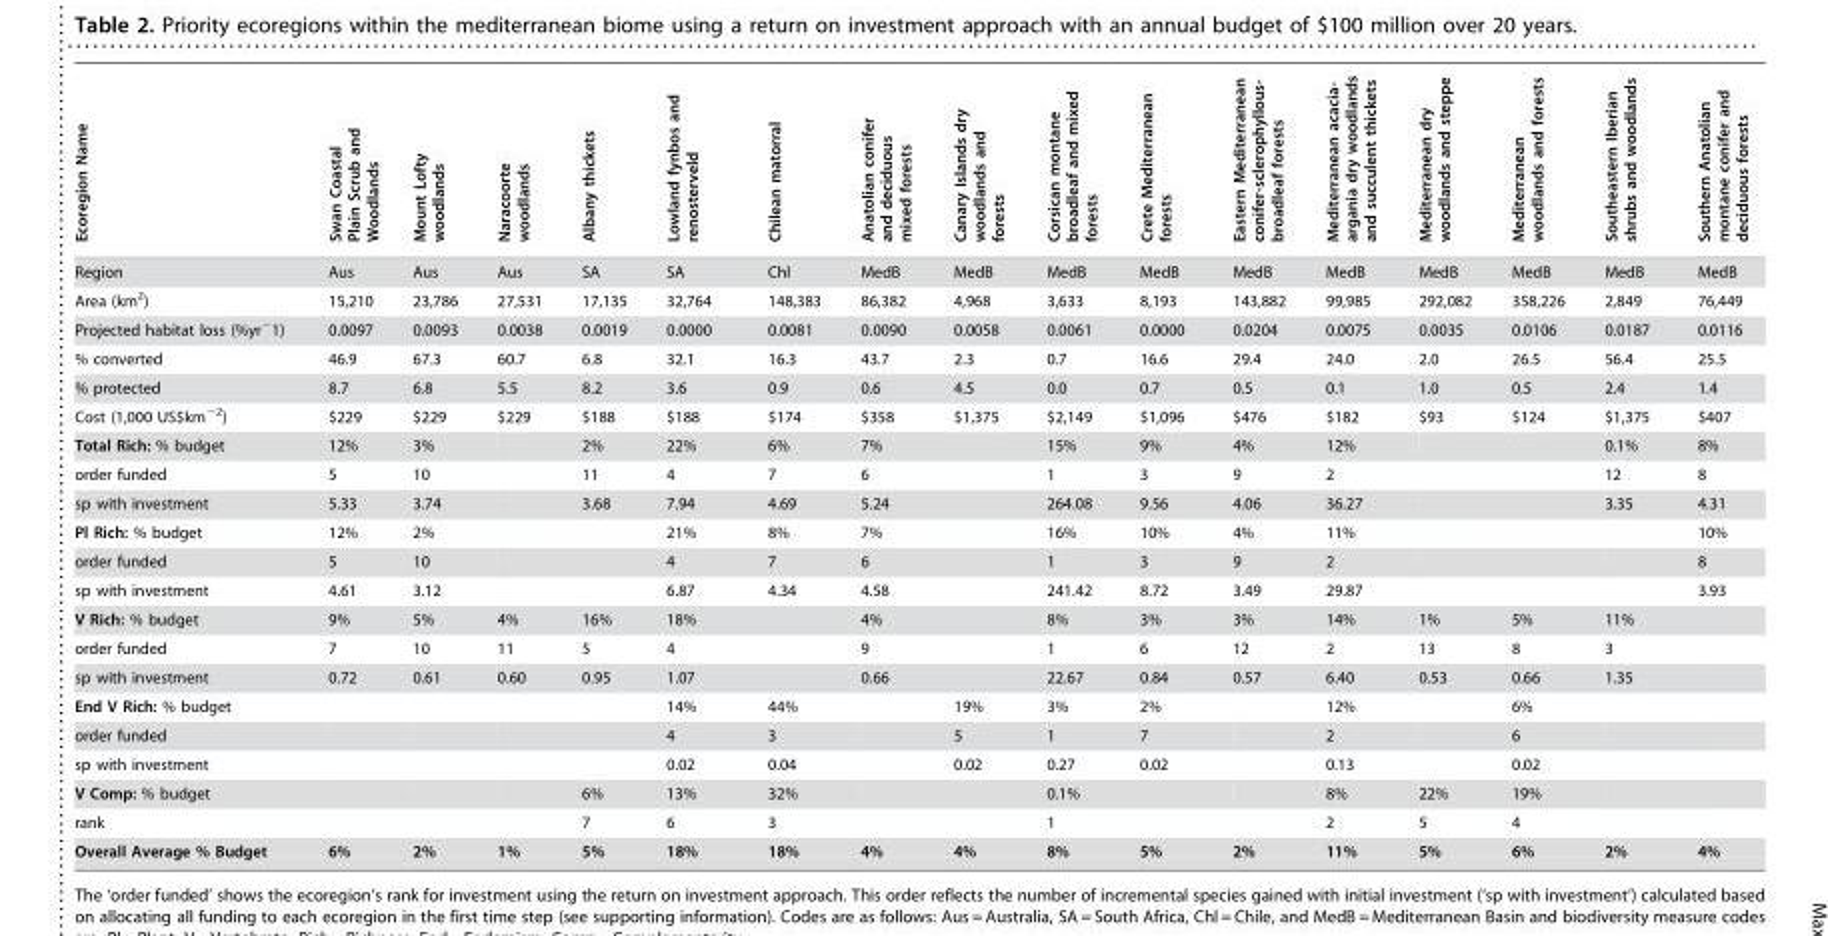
<table><thead><tr><td>Ecoregion Name</td><td>Swan Coastal Plain Scrub and Woodlands</td><td>Mount Lofty woodlands</td><td>Naracoorte woodlands</td><td>Albany thickets</td><td>Lowland fynbos and renosterveld</td><td>Chilean matorral</td><td>Anatolian conifer and deciduous mixed forests</td><td>Canary Islands dry woodlands and forests</td><td>Corsican montane broadleaf and mixed forests</td><td>Crete Mediterranean forests</td><td>Eastern Mediterranean conifer-sclerophyllous- broadleaf forests</td><td>Mediterranean acacia- argania dry woodlands and succulent thickets</td><td>Mediterranean dry woodlands and steppe</td><td>Mediterranean woodlands and forests</td><td>Southeastern Iberian shrubs and woodlands</td><td>Southern Anatolian montane conifer and deciduous forests</td></tr></thead><tbody><tr><td>Region</td><td>Aus</td><td>Aus</td><td>Aus</td><td>SA</td><td>SA</td><td>Chl</td><td>MedB</td><td>MedB</td><td>MedB</td><td>MedB</td><td>MedB</td><td>MedB</td><td>MedB</td><td>MedB</td><td>MedB</td><td>MedB</td></tr><tr><td>Area (km<sup>2</sup>)</td><td>15,210</td><td>23,786</td><td>27,531</td><td>17,135</td><td>32,764</td><td>148,383</td><td>86,382</td><td>4,968</td><td>3,633</td><td>8,193</td><td>143,882</td><td>99,985</td><td>292,082</td><td>358,226</td><td>2,849</td><td>76,449</td></tr><tr><td>Projected habitat loss (%yr<sup>−</sup>1)</td><td>0.0097</td><td>0.0093</td><td>0.0038</td><td>0.0019</td><td>0.0000</td><td>0.0081</td><td>0.0090</td><td>0.0058</td><td>0.0061</td><td>0.0000</td><td>0.0204</td><td>0.0075</td><td>0.0035</td><td>0.0106</td><td>0.0187</td><td>0.0116</td></tr><tr><td>% converted</td><td>46.9</td><td>67.3</td><td>60.7</td><td>6.8</td><td>32.1</td><td>16.3</td><td>43.7</td><td>2.3</td><td>0.7</td><td>16.6</td><td>29.4</td><td>24.0</td><td>2.0</td><td>26.5</td><td>56.4</td><td>25.5</td></tr><tr><td>% protected</td><td>8.7</td><td>6.8</td><td>5.5</td><td>8.2</td><td>3.6</td><td>0.9</td><td>0.6</td><td>4.5</td><td>0.0</td><td>0.7</td><td>0.5</td><td>0.1</td><td>1.0</td><td>0.5</td><td>2.4</td><td>1.4</td></tr><tr><td>Cost (1,000 US$km<sup>−2</sup>)</td><td>$229</td><td>$229</td><td>$229</td><td>$188</td><td>$188</td><td>$174</td><td>$358</td><td>$1,375</td><td>$2,149</td><td>$1,096</td><td>$476</td><td>$182</td><td>$93</td><td>$124</td><td>$1,375</td><td>$407</td></tr><tr><td>Total Rich: % budget</td><td>12%</td><td>3%</td><td></td><td>2%</td><td>22%</td><td>6%</td><td>7%</td><td></td><td>15%</td><td>9%</td><td>4%</td><td>12%</td><td></td><td></td><td>0.1%</td><td>8%</td></tr><tr><td>order funded</td><td>5</td><td>10</td><td></td><td>11</td><td>4</td><td>7</td><td>6</td><td></td><td>1</td><td>3</td><td>9</td><td>2</td><td></td><td></td><td>12</td><td>8</td></tr><tr><td>sp with investment</td><td>5.33</td><td>3.74</td><td></td><td>3.68</td><td>7.94</td><td>4.69</td><td>5.24</td><td></td><td>264.08</td><td>9.56</td><td>4.06</td><td>36.27</td><td></td><td></td><td>3.35</td><td>4.31</td></tr><tr><td>Pl Rich: % budget</td><td>12%</td><td>2%</td><td></td><td></td><td>21%</td><td>8%</td><td>7%</td><td></td><td>16%</td><td>10%</td><td>4%</td><td>11%</td><td></td><td></td><td></td><td>10%</td></tr><tr><td>order funded</td><td>5</td><td>10</td><td></td><td></td><td>4</td><td>7</td><td>6</td><td></td><td>1</td><td>3</td><td>9</td><td>2</td><td></td><td></td><td></td><td>8</td></tr><tr><td>sp with investment</td><td>4.61</td><td>3.12</td><td></td><td></td><td>6.87</td><td>4.34</td><td>4.58</td><td></td><td>241.42</td><td>8.72</td><td>3.49</td><td>29.87</td><td></td><td></td><td></td><td>3.93</td></tr><tr><td>V Rich: % budget</td><td>9%</td><td>5%</td><td>4%</td><td>16%</td><td>18%</td><td></td><td>4%</td><td></td><td>8%</td><td>3%</td><td>3%</td><td>14%</td><td>1%</td><td>5%</td><td>11%</td><td></td></tr><tr><td>order funded</td><td>7</td><td>10</td><td>11</td><td>5</td><td>4</td><td></td><td>9</td><td></td><td>1</td><td>6</td><td>12</td><td>2</td><td>13</td><td>8</td><td>3</td><td></td></tr><tr><td>sp with investment</td><td>0.72</td><td>0.61</td><td>0.60</td><td>0.95</td><td>1.07</td><td></td><td>0.66</td><td></td><td>22.67</td><td>0.84</td><td>0.57</td><td>6.40</td><td>0.53</td><td>0.66</td><td>1.35</td><td></td></tr><tr><td>End V Rich: % budget</td><td></td><td></td><td></td><td></td><td>14%</td><td>44%</td><td></td><td>19%</td><td>3%</td><td>2%</td><td></td><td>12%</td><td></td><td>6%</td><td></td><td></td></tr><tr><td>order funded</td><td></td><td></td><td></td><td></td><td>4</td><td>3</td><td></td><td>5</td><td>1</td><td>7</td><td></td><td>2</td><td></td><td>6</td><td></td><td></td></tr><tr><td>sp with investment</td><td></td><td></td><td></td><td></td><td>0.02</td><td>0.04</td><td></td><td>0.02</td><td>0.27</td><td>0.02</td><td></td><td>0.13</td><td></td><td>0.02</td><td></td><td></td></tr><tr><td>V Comp: % budget</td><td></td><td></td><td></td><td>6%</td><td>13%</td><td>32%</td><td></td><td></td><td>0.1%</td><td></td><td></td><td>8%</td><td>22%</td><td>19%</td><td></td><td></td></tr><tr><td>rank</td><td></td><td></td><td></td><td>7</td><td>6</td><td>3</td><td></td><td></td><td>1</td><td></td><td></td><td>2</td><td>5</td><td>4</td><td></td><td></td></tr><tr><td>Overall Average % Budget</td><td>6%</td><td>2%</td><td>1%</td><td>5%</td><td>18%</td><td>18%</td><td>4%</td><td>4%</td><td>8%</td><td>5%</td><td>2%</td><td>11%</td><td>5%</td><td>6%</td><td>2%</td><td>4%</td></tr></tbody></table>